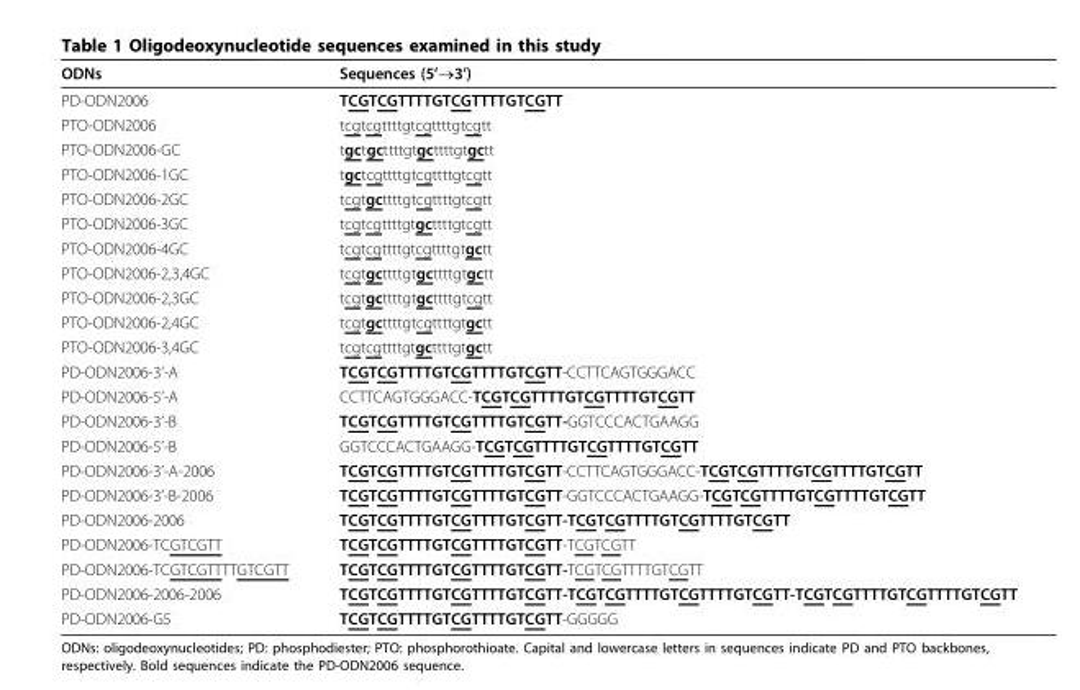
<table><thead><tr><td>ODNs</td><td>Sequences (5’→3’)</td></tr></thead><tbody><tr><td>PD-ODN2006</td><td>TCGTCGTTTTGTCGTTTTGTCGTT</td></tr><tr><td>PTO-ODN2006</td><td>tcgtcgttttgtcgttttgtcgtt</td></tr><tr><td>PTO-ODN2006-GC</td><td>tgctgcttttgtgcttttgtgctt</td></tr><tr><td>PTO-ODN2006-1GC</td><td>tgctcgttttgtcgttttgtcgtt</td></tr><tr><td>PTO-ODN2006-2GC</td><td>tcgtgcttttgtcgttttgtcgtt</td></tr><tr><td>PTO-ODN2006-3GC</td><td>tcgtcgttttgtgcttttgtcgtt</td></tr><tr><td>PTO-ODN2006-4GC</td><td>tcgtcgttttgtcgttttgtgctt</td></tr><tr><td>PTO-ODN2006-2,3,4GC</td><td>tcgtgcttttgtgcttttgtgctt</td></tr><tr><td>PTO-ODN2006-2,3GC</td><td>tcgtgcttttgtgcttttgtcgtt</td></tr><tr><td>PTO-ODN2006-2,4GC</td><td>tcgtgcttttgtcgttttgtgctt</td></tr><tr><td>PTO-ODN2006-3,4GC</td><td>tcgtcgttttgtgcttttgtgctt</td></tr><tr><td>PD-ODN2006-3’-A</td><td>TCGTCGTTTTGTCGTTTTGTCGTT-CCTTCAGTGGGACC</td></tr><tr><td>PD-ODN2006-5’-A</td><td>CCTTCAGTGGGACC-TCGTCGTTTTGTCGTTTTGTCGTT</td></tr><tr><td>PD-ODN2006-3’-B</td><td>TCGTCGTTTTGTCGTTTTGTCGTT-GGTCCCACTGAAGG</td></tr><tr><td>PD-ODN2006-5’-B</td><td>GGTCCCACTGAAGG-TCGTCGTTTTGTCGTTTTGTCGTT</td></tr><tr><td>PD-ODN2006-3’-A-2006</td><td>TCGTCGTTTTGTCGTTTTGTCGTT-CCTTCAGTGGGACC-TCGTCGTTTTGTCGTTTTGTCGTT</td></tr><tr><td>PD-ODN2006-3’-B-2006</td><td>TCGTCGTTTTGTCGTTTTGTCGTT-GGTCCCACTGAAGG-TCGTCGTTTTGTCGTTTTGTCGTT</td></tr><tr><td>PD-ODN2006-2006</td><td>TCGTCGTTTTGTCGTTTTGTCGTT-TCGTCGTTTTGTCGTTTTGTCGTT</td></tr><tr><td>PD-ODN2006-TCGTCGTT</td><td>TCGTCGTTTTGTCGTTTTGTCGTT-TCGTCGTT</td></tr><tr><td>PD-ODN2006-TCGTCGTTTTGTCGTT</td><td>TCGTCGTTTTGTCGTTTTGTCGTT-TCGTCGTTTTGTCGTT</td></tr><tr><td>PD-ODN2006-2006-2006</td><td>TCGTCGTTTTGTCGTTTTGTCGTT-TCGTCGTTTTGTCGTTTTGTCGTT-TCGTCGTTTTGTCGTTTTGTCGTT</td></tr><tr><td>PD-ODN2006-G5</td><td>TCGTCGTTTTGTCGTTTTGTCGTT-GGGGG</td></tr></tbody></table>